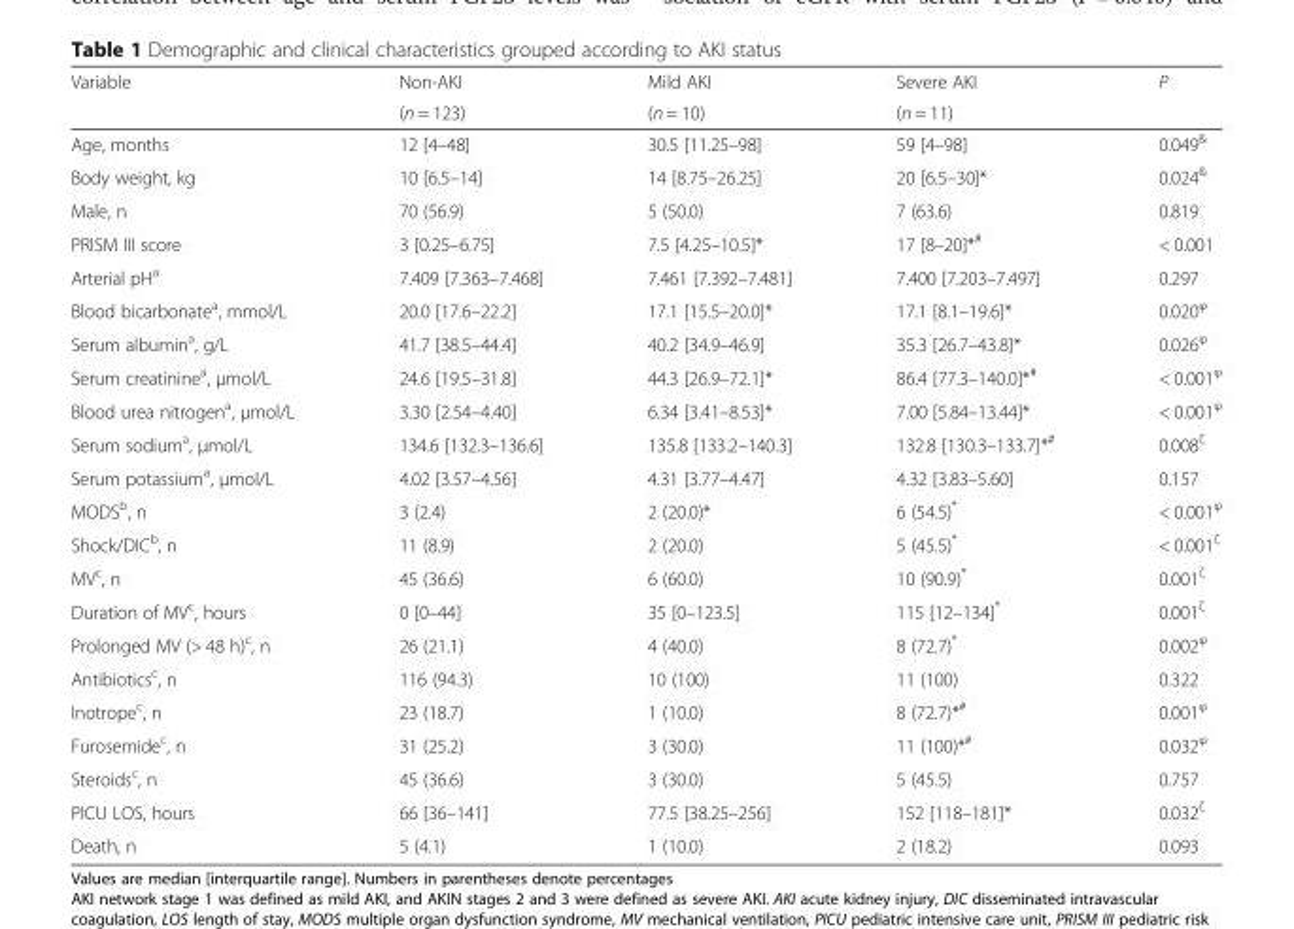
<table><thead><tr><td rowspan="2">Variable</td><td rowspan="2">Non-AKI (n = 123)</td><td rowspan="2">Mild AKI (n = 10)</td><td rowspan="2">Severe AKI (n = 11)</td><td rowspan="2">P</td></tr><tr></tr></thead><tbody><tr><td>Age, months</td><td>12 [4–48]</td><td>30.5 [11.25–98]</td><td>59 [4–98]</td><td>0.049<sup>&amp;</sup></td></tr><tr><td>Body weight, kg</td><td>10 [6.5–14]</td><td>14 [8.75–26.25]</td><td>20 [6.5–30]*</td><td>0.024<sup>&amp;</sup></td></tr><tr><td>Male, n</td><td>70 (56.9)</td><td>5 (50.0)</td><td>7 (63.6)</td><td>0.819</td></tr><tr><td>PRISM III score</td><td>3 [0.25–6.75]</td><td>7.5 [4.25–10.5]*</td><td>17 [8–20]*<sup>#</sup></td><td>&lt; 0.001</td></tr><tr><td>Arterial pH<sup>a</sup></td><td>7.409 [7.363–7.468]</td><td>7.461 [7.392–7.481]</td><td>7.400 [7.203–7.497]</td><td>0.297</td></tr><tr><td>Blood bicarbonate<sup>a</sup>, mmol/L</td><td>20.0 [17.6–22.2]</td><td>17.1 [15.5–20.0]*</td><td>17.1 [8.1–19.6]*</td><td>0.020<sup>φ</sup></td></tr><tr><td>Serum albumin<sup>a</sup>, g/L</td><td>41.7 [38.5–44.4]</td><td>40.2 [34.9–46.9]</td><td>35.3 [26.7–43.8]*</td><td>0.026<sup>φ</sup></td></tr><tr><td>Serum creatinine<sup>a</sup>, μmol/L</td><td>24.6 [19.5–31.8]</td><td>44.3 [26.9–72.1]*</td><td>86.4 [77.3–140.0]*<sup>#</sup></td><td>&lt; 0.001<sup>φ</sup></td></tr><tr><td>Blood urea nitrogen<sup>a</sup>, μmol/L</td><td>3.30 [2.54–4.40]</td><td>6.34 [3.41–8.53]*</td><td>7.00 [5.84–13.44]*</td><td>&lt; 0.001<sup>φ</sup></td></tr><tr><td>Serum sodium<sup>a</sup>, μmol/L</td><td>134.6 [132.3–136.6]</td><td>135.8 [133.2–140.3]</td><td>132.8 [130.3–133.7]*<sup>#</sup></td><td>0.008<sup>ζ</sup></td></tr><tr><td>Serum potassium<sup>a</sup>, μmol/L</td><td>4.02 [3.57–4.56]</td><td>4.31 [3.77–4.47]</td><td>4.32 [3.83–5.60]</td><td>0.157</td></tr><tr><td>MODS<sup>b</sup>, n</td><td>3 (2.4)</td><td>2 (20.0)*</td><td>6 (54.5)*</td><td>&lt; 0.001<sup>φ</sup></td></tr><tr><td>Shock/DIC<sup>b</sup>, n</td><td>11 (8.9)</td><td>2 (20.0)</td><td>5 (45.5)*</td><td>&lt; 0.001<sup>ζ</sup></td></tr><tr><td>MV<sup>c</sup>, n</td><td>45 (36.6)</td><td>6 (60.0)</td><td>10 (90.9)*</td><td>0.001<sup>ζ</sup></td></tr><tr><td>Duration of MV<sup>c</sup>, hours</td><td>0 [0–44]</td><td>35 [0–123.5]</td><td>115 [12–134]*</td><td>0.001<sup>ζ</sup></td></tr><tr><td>Prolonged MV (&gt; 48 h)<sup>c</sup>, n</td><td>26 (21.1)</td><td>4 (40.0)</td><td>8 (72.7)*</td><td>0.002<sup>φ</sup></td></tr><tr><td>Antibiotics<sup>c</sup>, n</td><td>116 (94.3)</td><td>10 (100)</td><td>11 (100)</td><td>0.322</td></tr><tr><td>Inotrope<sup>c</sup>, n</td><td>23 (18.7)</td><td>1 (10.0)</td><td>8 (72.7)*<sup>#</sup></td><td>0.001<sup>φ</sup></td></tr><tr><td>Furosemide<sup>c</sup>, n</td><td>31 (25.2)</td><td>3 (30.0)</td><td>11 (100)*<sup>#</sup></td><td>0.032<sup>φ</sup></td></tr><tr><td>Steroids<sup>c</sup>, n</td><td>45 (36.6)</td><td>3 (30.0)</td><td>5 (45.5)</td><td>0.757</td></tr><tr><td>PICU LOS, hours</td><td>66 [36–141]</td><td>77.5 [38.25–256]</td><td>152 [118–181]*</td><td>0.032<sup>ζ</sup></td></tr><tr><td>Death, n</td><td>5 (4.1)</td><td>1 (10.0)</td><td>2 (18.2)</td><td>0.093</td></tr></tbody></table>